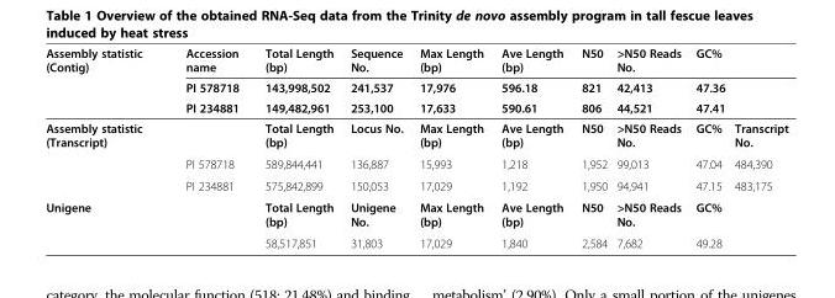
<table><thead><tr><td rowspan="3">Assembly statistic (Contig)</td><td rowspan="3">Accession name PI 578718 PI 234881</td><td rowspan="3">Total Length (bp) 143,998,502 149,482,961</td><td rowspan="3">Sequence No. 241,537 253,100</td><td rowspan="3">Max Length (bp) 17,976 17,633</td><td rowspan="3">Ave Length (bp) 596.18 590.61</td><td rowspan="3">N50 821 806</td><td rowspan="3">&gt;N50 Reads No. 42,413 44,521</td><td rowspan="3">GC% 47.36 47.41</td><td rowspan="3"></td></tr><tr></tr><tr></tr></thead><tbody><tr><td rowspan="3">Assembly statistic (Transcript)</td><td></td><td>Total Length (bp)</td><td>Locus No.</td><td>Max Length (bp)</td><td>Ave Length (bp)</td><td>N50</td><td>&gt;N50 Reads No.</td><td>GC%</td><td>Transcript No.</td></tr><tr><td>PI 578718</td><td>589,844,441</td><td>136,887</td><td>15,993</td><td>1,218</td><td>1,952</td><td>99,013</td><td>47.04</td><td>484,390</td></tr><tr><td>PI 234881</td><td>575,842,899</td><td>150,053</td><td>17,029</td><td>1,192</td><td>1,950</td><td>94,941</td><td>47.15</td><td>483,175</td></tr><tr><td rowspan="2">Unigene</td><td></td><td>Total Length (bp)</td><td>Unigene No.</td><td>Max Length (bp)</td><td>Ave Length (bp)</td><td>N50</td><td>&gt;N50 Reads No.</td><td>GC%</td><td></td></tr><tr><td></td><td>58,517,851</td><td>31,803</td><td>17,029</td><td>1,840</td><td>2,584</td><td>7,682</td><td>49.28</td><td></td></tr></tbody></table>